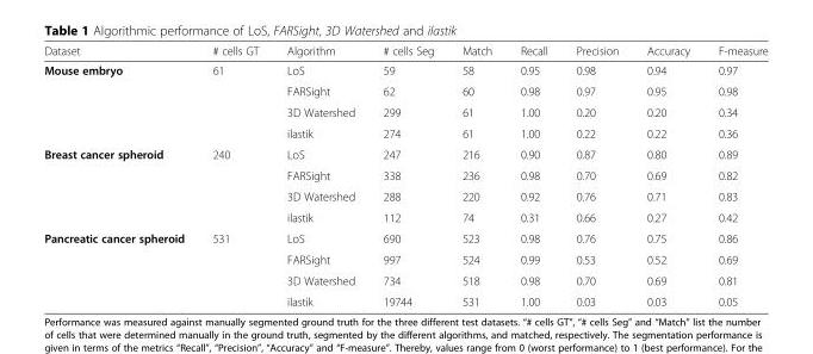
<table><thead><tr><td>Dataset</td><td># cells GT</td><td>Algorithm</td><td># cells Seg</td><td>Match</td><td>Recall</td><td>Precision</td><td>Accuracy</td><td>F-measure</td></tr></thead><tbody><tr><td rowspan="4">Mouse embryo</td><td rowspan="4">61</td><td>LoS</td><td>59</td><td>58</td><td>0.95</td><td>0.98</td><td>0.94</td><td>0.97</td></tr><tr><td>FARSight</td><td>62</td><td>60</td><td>0.98</td><td>0.97</td><td>0.95</td><td>0.98</td></tr><tr><td>3D Watershed</td><td>299</td><td>61</td><td>1.00</td><td>0.20</td><td>0.20</td><td>0.34</td></tr><tr><td>ilastik</td><td>274</td><td>61</td><td>1.00</td><td>0.22</td><td>0.22</td><td>0.36</td></tr><tr><td rowspan="4">Breast cancer spheroid</td><td rowspan="4">240</td><td>LoS</td><td>247</td><td>216</td><td>0.90</td><td>0.87</td><td>0.80</td><td>0.89</td></tr><tr><td>FARSight</td><td>338</td><td>236</td><td>0.98</td><td>0.70</td><td>0.69</td><td>0.82</td></tr><tr><td>3D Watershed</td><td>288</td><td>220</td><td>0.92</td><td>0.76</td><td>0.71</td><td>0.83</td></tr><tr><td>ilastik</td><td>112</td><td>74</td><td>0.31</td><td>0.66</td><td>0.27</td><td>0.42</td></tr><tr><td rowspan="4">Pancreatic cancer spheroid</td><td rowspan="4">531</td><td>LoS</td><td>690</td><td>523</td><td>0.98</td><td>0.76</td><td>0.75</td><td>0.86</td></tr><tr><td>FARSight</td><td>997</td><td>524</td><td>0.99</td><td>0.53</td><td>0.52</td><td>0.69</td></tr><tr><td>3D Watershed</td><td>734</td><td>518</td><td>0.98</td><td>0.70</td><td>0.69</td><td>0.81</td></tr><tr><td>ilastik</td><td>19744</td><td>531</td><td>1.00</td><td>0.03</td><td>0.03</td><td>0.05</td></tr></tbody></table>